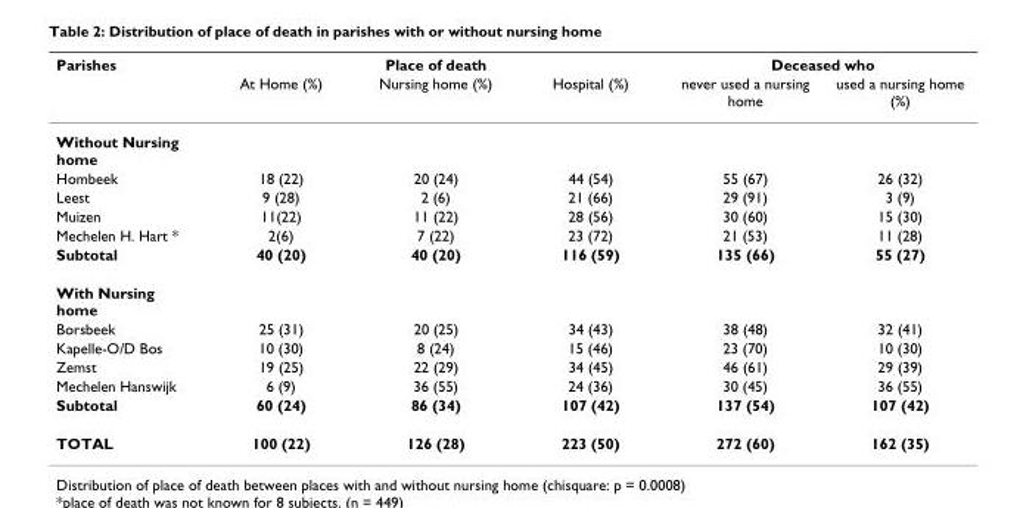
<table><thead><tr><td rowspan="2">Parishes</td><td colspan="3">Place of death</td><td colspan="2">Deceased who</td></tr><tr><td>At Home (%)</td><td>Nursing home (%)</td><td>Hospital (%)</td><td>never used a nursing home</td><td>used a nursing home (%)</td></tr></thead><tbody><tr><td colspan="6">Without Nursing home</td></tr><tr><td>Hombeek</td><td>18 (22)</td><td>20 (24)</td><td>44 (54)</td><td>55 (67)</td><td>26 (32)</td></tr><tr><td>Leest</td><td>9 (28)</td><td>2 (6)</td><td>21 (66)</td><td>29 (91)</td><td>3 (9)</td></tr><tr><td>Muizen</td><td>11(22)</td><td>11 (22)</td><td>28 (56)</td><td>30 (60)</td><td>15 (30)</td></tr><tr><td>Mechelen H. Hart *</td><td>2(6)</td><td>7 (22)</td><td>23 (72)</td><td>21 (53)</td><td>11 (28)</td></tr><tr><td>Subtotal</td><td>40 (20)</td><td>40 (20)</td><td>116 (59)</td><td>135 (66)</td><td>55 (27)</td></tr><tr><td colspan="6">With Nursing home</td></tr><tr><td>Borsbeek</td><td>25 (31)</td><td>20 (25)</td><td>34 (43)</td><td>38 (48)</td><td>32 (41)</td></tr><tr><td>Kapelle-O/D Bos</td><td>10 (30)</td><td>8 (24)</td><td>15 (46)</td><td>23 (70)</td><td>10 (30)</td></tr><tr><td>Zemst</td><td>19 (25)</td><td>22 (29)</td><td>34 (45)</td><td>46 (61)</td><td>29 (39)</td></tr><tr><td>Mechelen Hanswijk</td><td>6 (9)</td><td>36 (55)</td><td>24 (36)</td><td>30 (45)</td><td>36 (55)</td></tr><tr><td>Subtotal</td><td>60 (24)</td><td>86 (34)</td><td>107 (42)</td><td>137 (54)</td><td>107 (42)</td></tr><tr><td>TOTAL</td><td>100 (22)</td><td>126 (28)</td><td>223 (50)</td><td>272 (60)</td><td>162 (35)</td></tr></tbody></table>